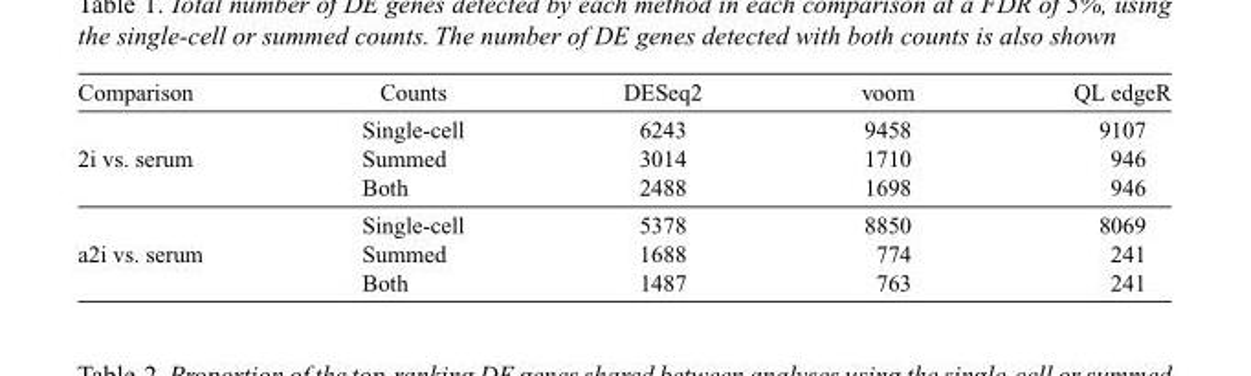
<table><thead><tr><td>Comparison</td><td>Counts</td><td>DESeq2</td><td>voom</td><td>QL edgeR</td></tr></thead><tbody><tr><td></td><td>Single-cell</td><td>6243</td><td>9458</td><td>9107</td></tr><tr><td rowspan="3">2i vs. serum</td><td>Summed</td><td>3014</td><td>1710</td><td>946</td></tr><tr><td>Both</td><td>2488</td><td>1698</td><td>946</td></tr><tr><td>Single-cell</td><td>5378</td><td>8850</td><td>8069</td></tr><tr><td rowspan="2">a2i vs. serum</td><td>Summed</td><td>1688</td><td>774</td><td>241</td></tr><tr><td>Both</td><td>1487</td><td>763</td><td>241</td></tr></tbody></table>